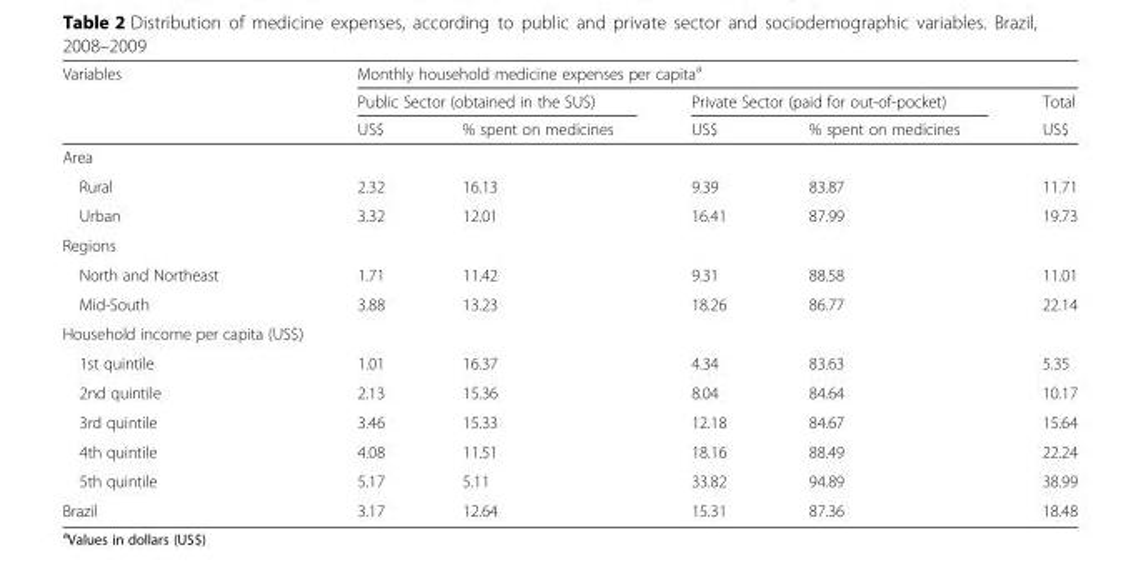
<table><thead><tr><td rowspan="3">Variables</td><td colspan="5">Monthly household medicine expenses per capita<sup>a</sup></td></tr><tr><td colspan="2">Public Sector (obtained in the SUS)</td><td colspan="2">Private Sector (paid for out-of-pocket)</td><td rowspan="2">Total US$</td></tr><tr><td>US$</td><td>% spent on medicines</td><td>US$</td><td>% spent on medicines</td></tr></thead><tbody><tr><td colspan="6">Area</td></tr><tr><td>Rural</td><td>2.32</td><td>16.13</td><td>9.39</td><td>83.87</td><td>11.71</td></tr><tr><td>Urban</td><td>3.32</td><td>12.01</td><td>16.41</td><td>87.99</td><td>19.73</td></tr><tr><td colspan="6">Regions</td></tr><tr><td>North and Northeast</td><td>1.71</td><td>11.42</td><td>9.31</td><td>88.58</td><td>11.01</td></tr><tr><td>Mid-South</td><td>3.88</td><td>13.23</td><td>18.26</td><td>86.77</td><td>22.14</td></tr><tr><td colspan="6">Household income per capita (US$)</td></tr><tr><td>1st quintile</td><td>1.01</td><td>16.37</td><td>4.34</td><td>83.63</td><td>5.35</td></tr><tr><td>2nd quintile</td><td>2.13</td><td>15.36</td><td>8.04</td><td>84.64</td><td>10.17</td></tr><tr><td>3rd quintile</td><td>3.46</td><td>15.33</td><td>12.18</td><td>84.67</td><td>15.64</td></tr><tr><td>4th quintile</td><td>4.08</td><td>11.51</td><td>18.16</td><td>88.49</td><td>22.24</td></tr><tr><td>5th quintile</td><td>5.17</td><td>5.11</td><td>33.82</td><td>94.89</td><td>38.99</td></tr><tr><td>Brazil</td><td>3.17</td><td>12.64</td><td>15.31</td><td>87.36</td><td>18.48</td></tr></tbody></table>